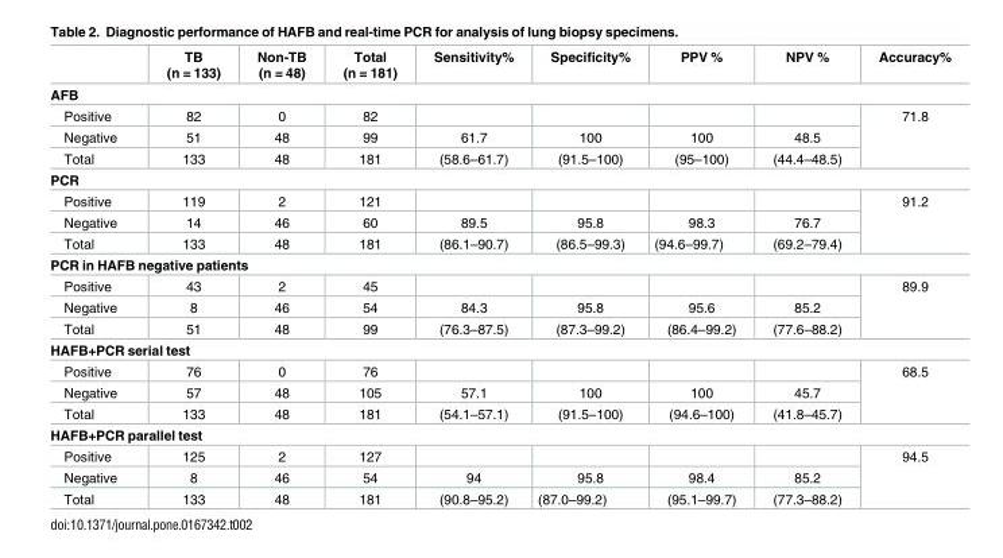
<table><thead><tr><td></td><td>TB (n = 133)</td><td>Non-TB (n = 48)</td><td>Total (n = 181)</td><td>Sensitivity%</td><td>Specificity%</td><td>PPV %</td><td>NPV %</td><td>Accuracy%</td></tr></thead><tbody><tr><td colspan="9">AFB</td></tr><tr><td>Positive</td><td>82</td><td>0</td><td>82</td><td></td><td></td><td></td><td></td><td rowspan="3">71.8</td></tr><tr><td>Negative</td><td>51</td><td>48</td><td>99</td><td>61.7</td><td>100</td><td>100</td><td>48.5</td></tr><tr><td>Total</td><td>133</td><td>48</td><td>181</td><td>(58.6–61.7)</td><td>(91.5–100)</td><td>(95–100)</td><td>(44.4–48.5)</td></tr><tr><td colspan="9">PCR</td></tr><tr><td>Positive</td><td>119</td><td>2</td><td>121</td><td></td><td></td><td></td><td></td><td rowspan="3">91.2</td></tr><tr><td>Negative</td><td>14</td><td>46</td><td>60</td><td>89.5</td><td>95.8</td><td>98.3</td><td>76.7</td></tr><tr><td>Total</td><td>133</td><td>48</td><td>181</td><td>(86.1–90.7)</td><td>(86.5–99.3)</td><td>(94.6–99.7)</td><td>(69.2–79.4)</td></tr><tr><td colspan="9">PCR in HAFB negative patients</td></tr><tr><td>Positive</td><td>43</td><td>2</td><td>45</td><td></td><td></td><td></td><td></td><td rowspan="3">89.9</td></tr><tr><td>Negative</td><td>8</td><td>46</td><td>54</td><td>84.3</td><td>95.8</td><td>95.6</td><td>85.2</td></tr><tr><td>Total</td><td>51</td><td>48</td><td>99</td><td>(76.3–87.5)</td><td>(87.3–99.2)</td><td>(86.4–99.2)</td><td>(77.6–88.2)</td></tr><tr><td colspan="9">HAFB+PCR serial test</td></tr><tr><td>Positive</td><td>76</td><td>0</td><td>76</td><td></td><td></td><td></td><td></td><td rowspan="3">68.5</td></tr><tr><td>Negative</td><td>57</td><td>48</td><td>105</td><td>57.1</td><td>100</td><td>100</td><td>45.7</td></tr><tr><td>Total</td><td>133</td><td>48</td><td>181</td><td>(54.1–57.1)</td><td>(91.5–100)</td><td>(94.6–100)</td><td>(41.8–45.7)</td></tr><tr><td colspan="9">HAFB+PCR parallel test</td></tr><tr><td>Positive</td><td>125</td><td>2</td><td>127</td><td></td><td></td><td></td><td></td><td rowspan="3">94.5</td></tr><tr><td>Negative</td><td>8</td><td>46</td><td>54</td><td>94</td><td>95.8</td><td>98.4</td><td>85.2</td></tr><tr><td>Total</td><td>133</td><td>48</td><td>181</td><td>(90.8–95.2)</td><td>(87.0–99.2)</td><td>(95.1–99.7)</td><td>(77.3–88.2)</td></tr></tbody></table>